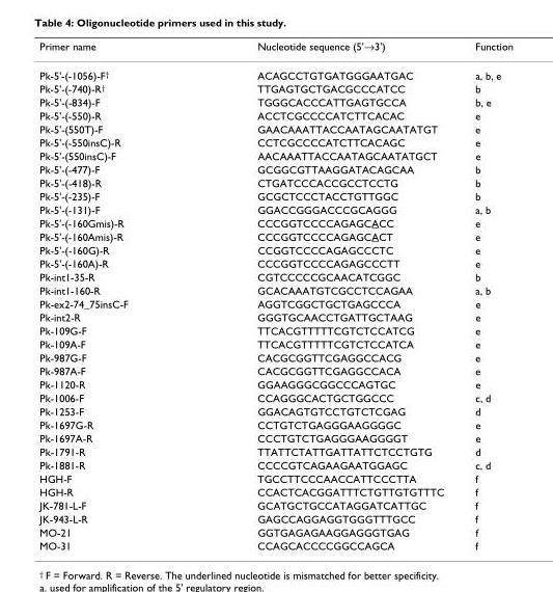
<table><thead><tr><td>Primer name</td><td>Nucleotide sequence (5&#x27;→3&#x27;)</td><td>Function</td></tr></thead><tbody><tr><td>Pk-5&#x27;-(-1056)-F<sup>†</sup></td><td>ACAGCCTGTGATGGGAATGAC</td><td>a, b, e</td></tr><tr><td>Pk-5&#x27;-(-740)-R<sup>†</sup></td><td>TTGAGTGCTGACGCCCATCC</td><td>b</td></tr><tr><td>Pk-5&#x27;-(-834)-F</td><td>TGGGCACCCATTGAGTGCCA</td><td>b, e</td></tr><tr><td>Pk-5&#x27;-(-550)-R</td><td>ACCTCGCCCCATCTTCACAC</td><td>e</td></tr><tr><td>Pk-5&#x27;-(550T)-F</td><td>GAACAAATTACCAATAGCAATATGT</td><td>e</td></tr><tr><td>Pk-5&#x27;-(-550insC)-R</td><td>CCTCGCCCCATCTTCACAGC</td><td>e</td></tr><tr><td>Pk-5&#x27;-(550insC)-F</td><td>AACAAATTACCAATAGCAATATGCT</td><td>e</td></tr><tr><td>Pk-5&#x27;-(-477)-F</td><td>GCGGCGTTAAGGATACAGCAA</td><td>b</td></tr><tr><td>Pk-5&#x27;-(-418)-R</td><td>CTGATCCCACCGCCTCCTG</td><td>b</td></tr><tr><td>Pk-5&#x27;-(-235)-F</td><td>GCGCTCCCTACCTGTTGGC</td><td>b</td></tr><tr><td>Pk-5&#x27;-(-131)-F</td><td>GGACCGGGACCCGCAGGG</td><td>a, b</td></tr><tr><td>Pk-5&#x27;-(-160Gmis)-R</td><td>CCCGGTCCCCAGAGCACC</td><td>e</td></tr><tr><td>Pk-5&#x27;-(-160Amis)-R</td><td>CCCGGTCCCCAGAGCACT</td><td>e</td></tr><tr><td>Pk-5&#x27;-(-160G)-R</td><td>CCGGTCCCCAGAGCCCTC</td><td>e</td></tr><tr><td>Pk-5&#x27;-(-160A)-R</td><td>CCCGGTCCCCAGAGCCCTT</td><td>e</td></tr><tr><td>Pk-int1-35-R</td><td>CGTCCCCCGCAACATCGGC</td><td>b</td></tr><tr><td>Pk-int1-160-R</td><td>GCACAAATGTCGCCTCCAGAA</td><td>a, b</td></tr><tr><td>Pk-ex2-74_75insC-F</td><td>AGGTCGGCTGCTGAGCCCA</td><td>e</td></tr><tr><td>Pk-int2-R</td><td>GGGTGCAACCTGATTGCTAAG</td><td>e</td></tr><tr><td>Pk-109G-F</td><td>TTCACGTTTTTCGTCTCCATCG</td><td>e</td></tr><tr><td>Pk-109A-F</td><td>TTCACGTTTTTCGTCTCCATCA</td><td>e</td></tr><tr><td>Pk-987G-F</td><td>CACGCGGTTCGAGGCCACG</td><td>e</td></tr><tr><td>Pk-987A-F</td><td>CACGCGGTTCGAGGCCACA</td><td>e</td></tr><tr><td>Pk-1120-R</td><td>GGAAGGGCGGCCCAGTGC</td><td>e</td></tr><tr><td>Pk-1006-F</td><td>CCAGGGCACTGCTGGCCC</td><td>c, d</td></tr><tr><td>Pk-1253-F</td><td>GGACAGTGTCCTGTCTCGAG</td><td>d</td></tr><tr><td>Pk-1697G-R</td><td>CCTGTCTGAGGGAAGGGGC</td><td>e</td></tr><tr><td>Pk-1697A-R</td><td>CCCTGTCTGAGGGAAGGGGT</td><td>e</td></tr><tr><td>Pk-1791-R</td><td>TTATTCTATTGATTATTCTCCTGTG</td><td>d</td></tr><tr><td>Pk-1881-R</td><td>CCCCGTCAGAAGAATGGAGC</td><td>c, d</td></tr><tr><td>HGH-F</td><td>TGCCTTCCCAACCATTCCCTTA</td><td>f</td></tr><tr><td>HGH-R</td><td>CCACTCACGGATTTCTGTTGTGTTTC</td><td>f</td></tr><tr><td>JK-781-L-F</td><td>GCATGCTGCCATAGGATCATTGC</td><td>f</td></tr><tr><td>JK-943-L-R</td><td>GAGCCAGGAGGTGGGTTTGCC</td><td>f</td></tr><tr><td>MO-21</td><td>GGTGAGAGAAGGAGGGTGAG</td><td>f</td></tr><tr><td>MO-31</td><td>CCAGCACCCCGGCCAGCA</td><td>f</td></tr></tbody></table>